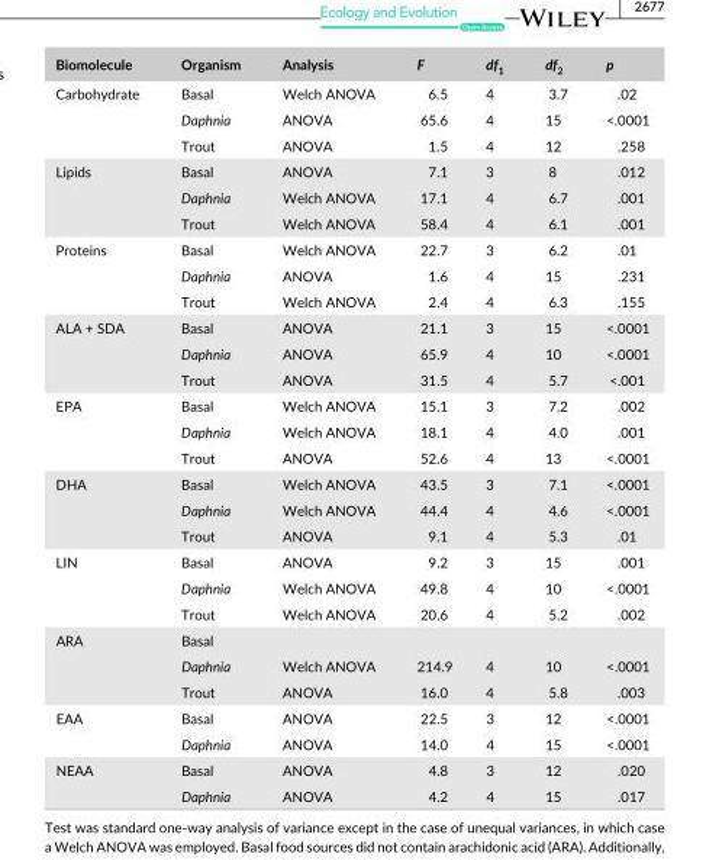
<table><thead><tr><td>Biomolecule</td><td>Organism</td><td>Analysis</td><td>F</td><td>df<sub>1</sub></td><td>df<sub>2</sub></td><td>p</td></tr></thead><tbody><tr><td rowspan="3">Carbohydrate</td><td>Basal</td><td>Welch ANOVA</td><td>6.5</td><td>4</td><td>3.7</td><td>.02</td></tr><tr><td>Daphnia</td><td>ANOVA</td><td>65.6</td><td>4</td><td>15</td><td>&lt;.0001</td></tr><tr><td>Trout</td><td>ANOVA</td><td>1.5</td><td>4</td><td>12</td><td>.258</td></tr><tr><td rowspan="3">Lipids</td><td>Basal</td><td>ANOVA</td><td>7.1</td><td>3</td><td>8</td><td>.012</td></tr><tr><td>Daphnia</td><td>Welch ANOVA</td><td>17.1</td><td>4</td><td>6.7</td><td>.001</td></tr><tr><td>Trout</td><td>Welch ANOVA</td><td>58.4</td><td>4</td><td>6.1</td><td>.001</td></tr><tr><td rowspan="3">Proteins</td><td>Basal</td><td>Welch ANOVA</td><td>22.7</td><td>3</td><td>6.2</td><td>.01</td></tr><tr><td>Daphnia</td><td>ANOVA</td><td>1.6</td><td>4</td><td>15</td><td>.231</td></tr><tr><td>Trout</td><td>Welch ANOVA</td><td>2.4</td><td>4</td><td>6.3</td><td>.155</td></tr><tr><td rowspan="3">ALA + SDA</td><td>Basal</td><td>ANOVA</td><td>21.1</td><td>3</td><td>15</td><td>&lt;.0001</td></tr><tr><td>Daphnia</td><td>ANOVA</td><td>65.9</td><td>4</td><td>10</td><td>&lt;.0001</td></tr><tr><td>Trout</td><td>ANOVA</td><td>31.5</td><td>4</td><td>5.7</td><td>&lt;.001</td></tr><tr><td rowspan="3">EPA</td><td>Basal</td><td>Welch ANOVA</td><td>15.1</td><td>3</td><td>7.2</td><td>.002</td></tr><tr><td>Daphnia</td><td>Welch ANOVA</td><td>18.1</td><td>4</td><td>4.0</td><td>.001</td></tr><tr><td>Trout</td><td>ANOVA</td><td>52.6</td><td>4</td><td>13</td><td>&lt;.0001</td></tr><tr><td rowspan="3">DHA</td><td>Basal</td><td>Welch ANOVA</td><td>43.5</td><td>3</td><td>7.1</td><td>&lt;.0001</td></tr><tr><td>Daphnia</td><td>Welch ANOVA</td><td>44.4</td><td>4</td><td>4.6</td><td>&lt;.0001</td></tr><tr><td>Trout</td><td>ANOVA</td><td>9.1</td><td>4</td><td>5.3</td><td>.01</td></tr><tr><td rowspan="3">LIN</td><td>Basal</td><td>ANOVA</td><td>9.2</td><td>3</td><td>15</td><td>.001</td></tr><tr><td>Daphnia</td><td>Welch ANOVA</td><td>49.8</td><td>4</td><td>10</td><td>&lt;.0001</td></tr><tr><td>Trout</td><td>Welch ANOVA</td><td>20.6</td><td>4</td><td>5.2</td><td>.002</td></tr><tr><td rowspan="3">ARA</td><td>Basal</td><td></td><td></td><td></td><td></td><td></td></tr><tr><td>Daphnia</td><td>Welch ANOVA</td><td>214.9</td><td>4</td><td>10</td><td>&lt;.0001</td></tr><tr><td>Trout</td><td>ANOVA</td><td>16.0</td><td>4</td><td>5.8</td><td>.003</td></tr><tr><td rowspan="2">EAA</td><td>Basal</td><td>ANOVA</td><td>22.5</td><td>3</td><td>12</td><td>&lt;.0001</td></tr><tr><td>Daphnia</td><td>ANOVA</td><td>14.0</td><td>4</td><td>15</td><td>&lt;.0001</td></tr><tr><td rowspan="2">NEAA</td><td>Basal</td><td>ANOVA</td><td>4.8</td><td>3</td><td>12</td><td>.020</td></tr><tr><td>Daphnia</td><td>ANOVA</td><td>4.2</td><td>4</td><td>15</td><td>.017</td></tr></tbody></table>